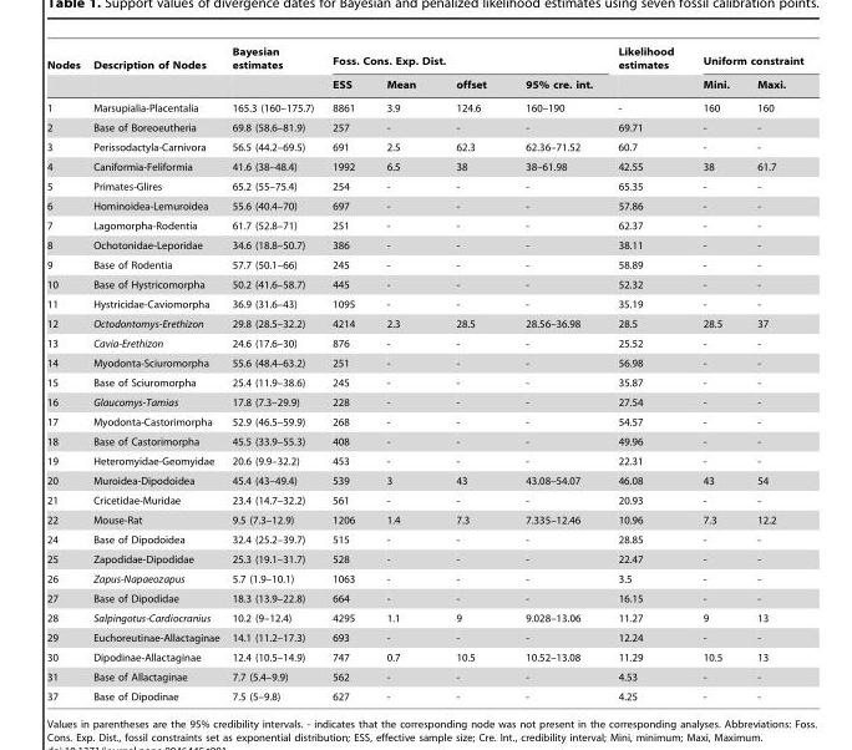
<table><thead><tr><td rowspan="2">Nodes</td><td rowspan="2">Description of Nodes</td><td rowspan="2">Bayesian estimates</td><td colspan="4">Foss. Cons. Exp. Dist.</td><td rowspan="2">Likelihood estimates</td><td colspan="2">Uniform constraint</td></tr><tr><td>ESS</td><td>Mean</td><td>offset</td><td>95% cre. int.</td><td>Mini.</td><td>Maxi.</td></tr></thead><tbody><tr><td>1</td><td>Marsupialia-Placentalia</td><td>165.3 (160–175.7)</td><td>8861</td><td>3.9</td><td>124.6</td><td>160–190</td><td>-</td><td>160</td><td>160</td></tr><tr><td>2</td><td>Base of Boreoeutheria</td><td>69.8 (58.6–81.9)</td><td>257</td><td>-</td><td>-</td><td>-</td><td>69.71</td><td>-</td><td>-</td></tr><tr><td>3</td><td>Perissodactyla-Carnivora</td><td>56.5 (44.2–69.5)</td><td>691</td><td>2.5</td><td>62.3</td><td>62.36–71.52</td><td>60.7</td><td>-</td><td>-</td></tr><tr><td>4</td><td>Caniformia-Feliformia</td><td>41.6 (38–48.4)</td><td>1992</td><td>6.5</td><td>38</td><td>38–61.98</td><td>42.55</td><td>38</td><td>61.7</td></tr><tr><td>5</td><td>Primates-Glires</td><td>65.2 (55–75.4)</td><td>254</td><td>-</td><td>-</td><td>-</td><td>65.35</td><td>-</td><td>-</td></tr><tr><td>6</td><td>Hominoidea-Lemuroidea</td><td>55.6 (40.4–70)</td><td>697</td><td>-</td><td>-</td><td>-</td><td>57.86</td><td>-</td><td>-</td></tr><tr><td>7</td><td>Lagomorpha-Rodentia</td><td>61.7 (52.8–71)</td><td>251</td><td>-</td><td>-</td><td>-</td><td>62.37</td><td>-</td><td>-</td></tr><tr><td>8</td><td>Ochotonidae-Leporidae</td><td>34.6 (18.8–50.7)</td><td>386</td><td>-</td><td>-</td><td>-</td><td>38.11</td><td>-</td><td>-</td></tr><tr><td>9</td><td>Base of Rodentia</td><td>57.7 (50.1–66)</td><td>245</td><td>-</td><td>-</td><td>-</td><td>58.89</td><td>-</td><td>-</td></tr><tr><td>10</td><td>Base of Hystricomorpha</td><td>50.2 (41.6–58.7)</td><td>445</td><td>-</td><td>-</td><td>-</td><td>52.32</td><td>-</td><td>-</td></tr><tr><td>11</td><td>Hystricidae-Caviomorpha</td><td>36.9 (31.6–43)</td><td>1095</td><td>-</td><td>-</td><td>-</td><td>35.19</td><td>-</td><td>-</td></tr><tr><td>12</td><td>Octodontomys-Erethizon</td><td>29.8 (28.5–32.2)</td><td>4214</td><td>2.3</td><td>28.5</td><td>28.56–36.98</td><td>28.5</td><td>28.5</td><td>37</td></tr><tr><td>13</td><td>Cavia-Erethizon</td><td>24.6 (17.6–30)</td><td>876</td><td>-</td><td>-</td><td>-</td><td>25.52</td><td>-</td><td>-</td></tr><tr><td>14</td><td>Myodonta-Sciuromorpha</td><td>55.6 (48.4–63.2)</td><td>251</td><td>-</td><td>-</td><td>-</td><td>56.98</td><td>-</td><td>-</td></tr><tr><td>15</td><td>Base of Sciuromorpha</td><td>25.4 (11.9–38.6)</td><td>245</td><td>-</td><td>-</td><td>-</td><td>35.87</td><td>-</td><td>-</td></tr><tr><td>16</td><td>Glaucomys-Tamias</td><td>17.8 (7.3–29.9)</td><td>228</td><td>-</td><td>-</td><td>-</td><td>27.54</td><td>-</td><td>-</td></tr><tr><td>17</td><td>Myodonta-Castorimorpha</td><td>52.9 (46.5–59.9)</td><td>268</td><td>-</td><td>-</td><td>-</td><td>54.57</td><td>-</td><td>-</td></tr><tr><td>18</td><td>Base of Castorimorpha</td><td>45.5 (33.9–55.3)</td><td>408</td><td>-</td><td>-</td><td>-</td><td>49.96</td><td>-</td><td>-</td></tr><tr><td>19</td><td>Heteromyidae-Geomyidae</td><td>20.6 (9.9–32.2)</td><td>453</td><td>-</td><td>-</td><td>-</td><td>22.31</td><td>-</td><td>-</td></tr><tr><td>20</td><td>Muroidea-Dipodoidea</td><td>45.4 (43–49.4)</td><td>539</td><td>3</td><td>43</td><td>43.08–54.07</td><td>46.08</td><td>43</td><td>54</td></tr><tr><td>21</td><td>Cricetidae-Muridae</td><td>23.4 (14.7–32.2)</td><td>561</td><td>-</td><td>-</td><td>-</td><td>20.93</td><td>-</td><td>-</td></tr><tr><td>22</td><td>Mouse-Rat</td><td>9.5 (7.3–12.9)</td><td>1206</td><td>1.4</td><td>7.3</td><td>7.335–12.46</td><td>10.96</td><td>7.3</td><td>12.2</td></tr><tr><td>24</td><td>Base of Dipodoidea</td><td>32.4 (25.2–39.7)</td><td>515</td><td>-</td><td>-</td><td>-</td><td>28.85</td><td>-</td><td>-</td></tr><tr><td>25</td><td>Zapodidae-Dipodidae</td><td>25.3 (19.1–31.7)</td><td>528</td><td>-</td><td>-</td><td>-</td><td>22.47</td><td>-</td><td>-</td></tr><tr><td>26</td><td>Zapus-Napaeozapus</td><td>5.7 (1.9–10.1)</td><td>1063</td><td>-</td><td>-</td><td>-</td><td>3.5</td><td>-</td><td>-</td></tr><tr><td>27</td><td>Base of Dipodidae</td><td>18.3 (13.9–22.8)</td><td>664</td><td>-</td><td>-</td><td>-</td><td>16.15</td><td>-</td><td>-</td></tr><tr><td>28</td><td>Salpingotus-Cardiocranius</td><td>10.2 (9–12.4)</td><td>4295</td><td>1.1</td><td>9</td><td>9.028–13.06</td><td>11.27</td><td>9</td><td>13</td></tr><tr><td>29</td><td>Euchoreutinae-Allactaginae</td><td>14.1 (11.2–17.3)</td><td>693</td><td>-</td><td>-</td><td>-</td><td>12.24</td><td>-</td><td>-</td></tr><tr><td>30</td><td>Dipodinae-Allactaginae</td><td>12.4 (10.5–14.9)</td><td>747</td><td>0.7</td><td>10.5</td><td>10.52–13.08</td><td>11.29</td><td>10.5</td><td>13</td></tr><tr><td>31</td><td>Base of Allactaginae</td><td>7.7 (5.4–9.9)</td><td>562</td><td>-</td><td>-</td><td>-</td><td>4.53</td><td>-</td><td>-</td></tr><tr><td>37</td><td>Base of Dipodinae</td><td>7.5 (5–9.8)</td><td>627</td><td>-</td><td>-</td><td>-</td><td>4.25</td><td>-</td><td>-</td></tr></tbody></table>